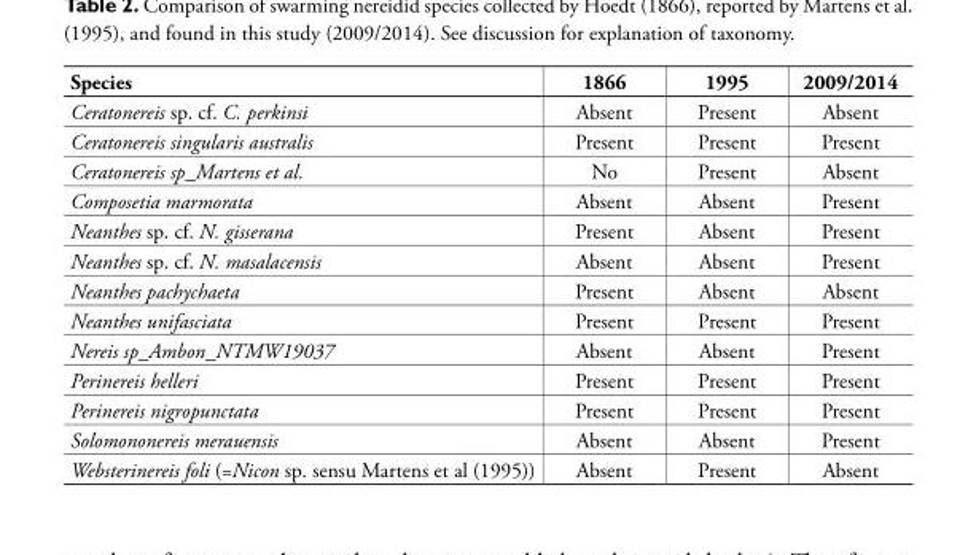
<table><thead><tr><td>Species</td><td>1866</td><td>1995</td><td>2009/2014</td></tr></thead><tbody><tr><td>Ceratonereis sp. cf. C. perkinsi</td><td>Absent</td><td>Present</td><td>Absent</td></tr><tr><td>Ceratonereis singularis australis</td><td>Present</td><td>Present</td><td>Present</td></tr><tr><td>Ceratonereis sp_Martens et al.</td><td>No</td><td>Present</td><td>Absent</td></tr><tr><td>Composetia marmorata</td><td>Absent</td><td>Absent</td><td>Present</td></tr><tr><td>Neanthes sp. cf. N. gisserana</td><td>Present</td><td>Absent</td><td>Present</td></tr><tr><td>Neanthes sp. cf. N. masalacensis</td><td>Absent</td><td>Absent</td><td>Present</td></tr><tr><td>Neanthes pachychaeta</td><td>Present</td><td>Absent</td><td>Absent</td></tr><tr><td>Neanthes unifasciata</td><td>Present</td><td>Present</td><td>Present</td></tr><tr><td>Nereis sp_Ambon_NTMW19037</td><td>Absent</td><td>Absent</td><td>Present</td></tr><tr><td>Perinereis helleri</td><td>Present</td><td>Present</td><td>Present</td></tr><tr><td>Perinereis nigropunctata</td><td>Present</td><td>Present</td><td>Present</td></tr><tr><td>Solomononereis merauensis</td><td>Absent</td><td>Absent</td><td>Present</td></tr><tr><td>Websterinereis foli (=Nicon sp. sensu Martens et al (1995))</td><td>Absent</td><td>Present</td><td>Absent</td></tr></tbody></table>